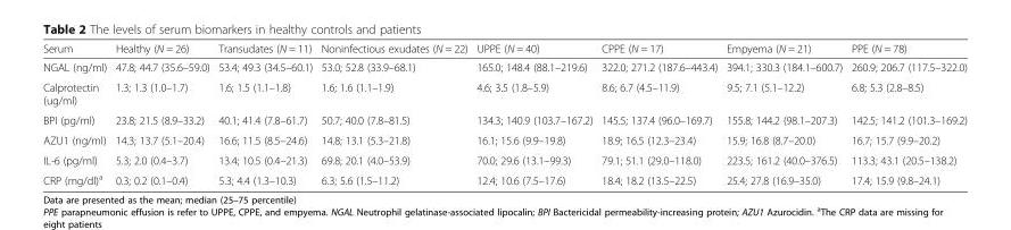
<table><thead><tr><td>Serum</td><td>Healthy (N = 26)</td><td>Transudates (N = 11)</td><td>Noninfectious exudates (N = 22)</td><td>UPPE (N = 40)</td><td>CPPE (N = 17)</td><td>Empyema (N = 21)</td><td>PPE (N = 78)</td></tr></thead><tbody><tr><td>NGAL (ng/ml)</td><td>47.8; 44.7 (35.6–59.0)</td><td>53.4; 49.3 (34.5–60.1)</td><td>53.0; 52.8 (33.9–68.1)</td><td>165.0; 148.4 (88.1–219.6)</td><td>322.0; 271.2 (187.6–443.4)</td><td>394.1; 330.3 (184.1–600.7)</td><td>260.9; 206.7 (117.5–322.0)</td></tr><tr><td>Calprotectin (ug/ml)</td><td>1.3; 1.3 (1.0–1.7)</td><td>1.6; 1.5 (1.1–1.8)</td><td>1.6; 1.6 (1.1–1.9)</td><td>4.6; 3.5 (1.8–5.9)</td><td>8.6; 6.7 (4.5–11.9)</td><td>9.5; 7.1 (5.1–12.2)</td><td>6.8; 5.3 (2.8–8.5)</td></tr><tr><td>BPI (pg/ml)</td><td>23.8; 21.5 (8.9–33.2)</td><td>40.1; 41.4 (7.8–61.7)</td><td>50.7; 40.0 (7.8–81.5)</td><td>134.3; 140.9 (103.7–167.2)</td><td>145.5; 137.4 (96.0–169.7)</td><td>155.8; 144.2 (98.1–207.3)</td><td>142.5; 141.2 (101.3–169.2)</td></tr><tr><td>AZU1 (ng/ml)</td><td>14.3; 13.7 (5.1–20.4)</td><td>16.6; 11.5 (8.5–24.6)</td><td>14.8; 13.1 (5.3–21.8)</td><td>16.1; 15.6 (9.9–19.8)</td><td>18.9; 16.5 (12.3–23.4)</td><td>15.9; 16.8 (8.7–20.0)</td><td>16.7; 15.7 (9.9–20.2)</td></tr><tr><td>IL-6 (pg/ml)</td><td>5.3; 2.0 (0.4–3.7)</td><td>13.4; 10.5 (0.4–21.3)</td><td>69.8; 20.1 (4.0–53.9)</td><td>70.0; 29.6 (13.1–99.3)</td><td>79.1; 51.1 (29.0–118.0)</td><td>223.5; 161.2 (40.0–376.5)</td><td>113.3; 43.1 (20.5–138.2)</td></tr><tr><td>CRP (mg/dl)<sup>a</sup></td><td>0.3; 0.2 (0.1–0.4)</td><td>5.3; 4.4 (1.3–10.3)</td><td>6.3; 5.6 (1.5–11.2)</td><td>12.4; 10.6 (7.5–17.6)</td><td>18.4; 18.2 (13.5–22.5)</td><td>25.4; 27.8 (16.9–35.0)</td><td>17.4; 15.9 (9.8–24.1)</td></tr></tbody></table>